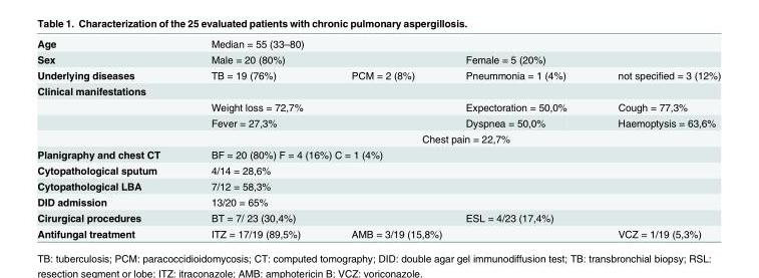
<table><tbody><tr><td>Age</td><td colspan="4">Median = 55 (33–80)</td></tr><tr><td>Sex</td><td colspan="2">Male = 20 (80%)</td><td colspan="2">Female = 5 (20%)</td></tr><tr><td>Underlying diseases</td><td>TB = 19 (76%)</td><td>PCM = 2 (8%)</td><td>Pneummonia = 1 (4%)</td><td>not specified = 3 (12%)</td></tr><tr><td colspan="5">Clinical manifestations</td></tr><tr><td></td><td colspan="2">Weight loss = 72,7%</td><td>Expectoration = 50,0%</td><td>Cough = 77,3%</td></tr><tr><td></td><td colspan="2">Fever = 27,3%</td><td>Dyspnea = 50,0%</td><td>Haemoptysis = 63,6%</td></tr><tr><td></td><td colspan="4">Chest pain = 22,7%</td></tr><tr><td>Planigraphy and chest CT</td><td colspan="4">BF = 20 (80%) F = 4 (16%) C = 1 (4%)</td></tr><tr><td>Cytopathological sputum</td><td colspan="4">4/14 = 28,6%</td></tr><tr><td>Cytopathological LBA</td><td colspan="4">7/12 = 58,3%</td></tr><tr><td>DID admission</td><td colspan="4">13/20 = 65%</td></tr><tr><td>Cirurgical procedures</td><td colspan="2">BT = 7/ 23 (30,4%)</td><td colspan="2">ESL = 4/23 (17,4%)</td></tr><tr><td>Antifungal treatment</td><td>ITZ = 17/19 (89,5%)</td><td colspan="2">AMB = 3/19 (15,8%)</td><td>VCZ = 1/19 (5,3%)</td></tr></tbody></table>